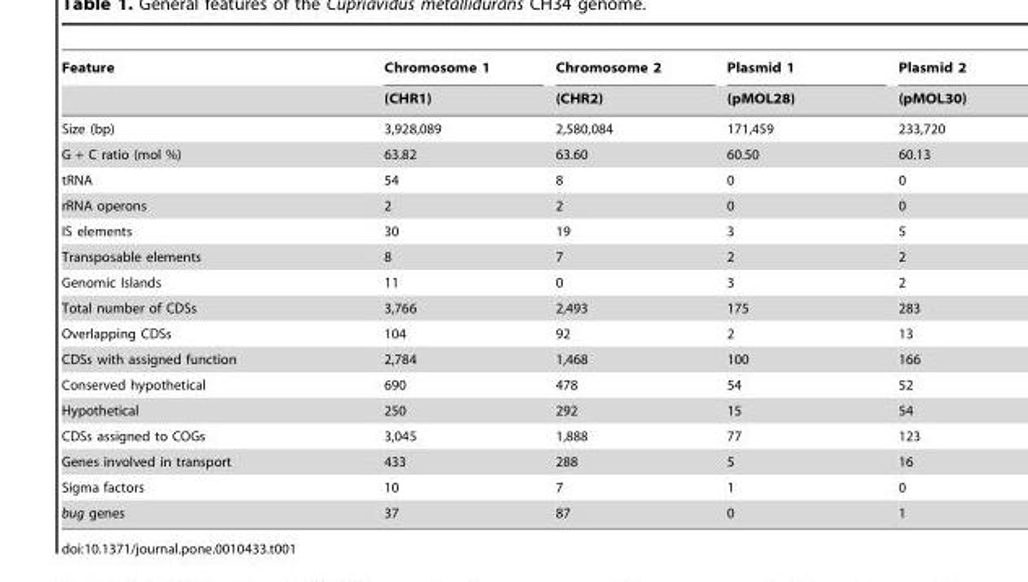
<table><thead><tr><td rowspan="2">Feature</td><td rowspan="2">Chromosome 1 (CHR1)</td><td rowspan="2">Chromosome 2 (CHR2)</td><td rowspan="2">Plasmid 1 (pMOL28)</td><td rowspan="2">Plasmid 2 (pMOL30)</td></tr><tr></tr></thead><tbody><tr><td>Size (bp)</td><td>3,928,089</td><td>2,580,084</td><td>171,459</td><td>233,720</td></tr><tr><td>G + C ratio (mol %)</td><td>63.82</td><td>63.60</td><td>60.50</td><td>60.13</td></tr><tr><td>tRNA</td><td>54</td><td>8</td><td>0</td><td>0</td></tr><tr><td>rRNA operons</td><td>2</td><td>2</td><td>0</td><td>0</td></tr><tr><td>IS elements</td><td>30</td><td>19</td><td>3</td><td>5</td></tr><tr><td>Transposable elements</td><td>8</td><td>7</td><td>2</td><td>2</td></tr><tr><td>Genomic Islands</td><td>11</td><td>0</td><td>3</td><td>2</td></tr><tr><td>Total number of CDSs</td><td>3,766</td><td>2,493</td><td>175</td><td>283</td></tr><tr><td>Overlapping CDSs</td><td>104</td><td>92</td><td>2</td><td>13</td></tr><tr><td>CDSs with assigned function</td><td>2,784</td><td>1,468</td><td>100</td><td>166</td></tr><tr><td>Conserved hypothetical</td><td>690</td><td>478</td><td>54</td><td>52</td></tr><tr><td>Hypothetical</td><td>250</td><td>292</td><td>15</td><td>54</td></tr><tr><td>CDSs assigned to COGs</td><td>3,045</td><td>1,888</td><td>77</td><td>123</td></tr><tr><td>Genes involved in transport</td><td>433</td><td>288</td><td>5</td><td>16</td></tr><tr><td>Sigma factors</td><td>10</td><td>7</td><td>1</td><td>0</td></tr><tr><td>bug genes</td><td>37</td><td>87</td><td>0</td><td>1</td></tr></tbody></table>